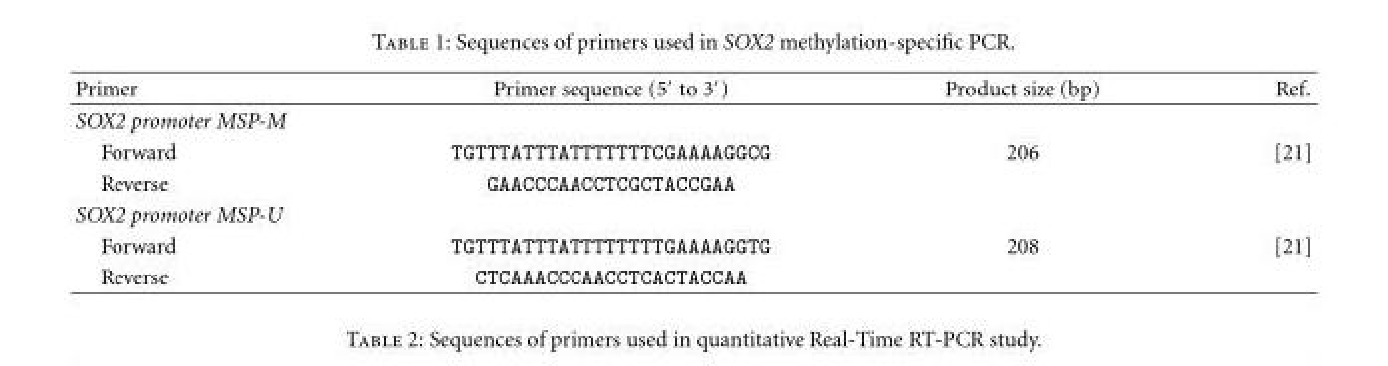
<table><thead><tr><td>Primer</td><td>Primer sequence (5′ to 3′)</td><td>Product size (bp)</td><td>Ref.</td></tr></thead><tbody><tr><td colspan="4">SOX2 promoter MSP-M</td></tr><tr><td>Forward</td><td>TGTTTATTTATTTTTTTCGAAAAGGCG</td><td>206</td><td>[21]</td></tr><tr><td>Reverse</td><td>GAACCCAACCTCGCTACCGAA</td><td></td><td></td></tr><tr><td colspan="4">SOX2 promoter MSP-U</td></tr><tr><td>Forward</td><td>TGTTTATTTATTTTTTTTGAAAAGGTG</td><td>208</td><td>[21]</td></tr><tr><td>Reverse</td><td>CTCAAACCCAACCTCACTACCAA</td><td></td><td></td></tr></tbody></table>